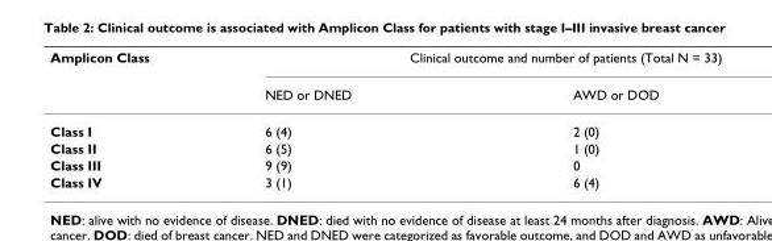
<table><thead><tr><td rowspan="2">Amplicon Class</td><td colspan="2">Clinical outcome and number of patients (Total N = 33)</td></tr><tr><td>NED or DNED</td><td>AWD or DOD</td></tr></thead><tbody><tr><td>Class I</td><td>6 (4)</td><td>2 (0)</td></tr><tr><td>Class II</td><td>6 (5)</td><td>1 (0)</td></tr><tr><td>Class III</td><td>9 (9)</td><td>0</td></tr><tr><td>Class IV</td><td>3 (1)</td><td>6 (4)</td></tr></tbody></table>